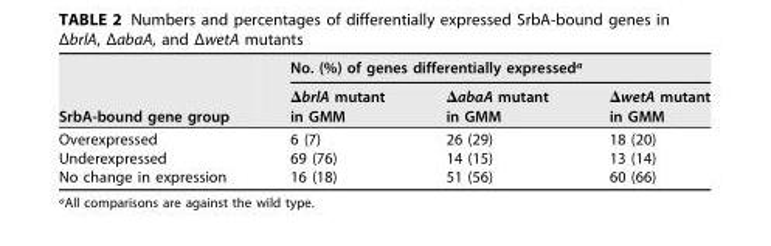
<table><thead><tr><td rowspan="2">SrbA-bound gene group</td><td colspan="3">No. (%) of genes differentially expressed<sup>a</sup></td></tr><tr><td>ΔbrlA mutant in GMM</td><td>ΔabaA mutant in GMM</td><td>ΔwetA mutant in GMM</td></tr></thead><tbody><tr><td>Overexpressed</td><td>6 (7)</td><td>26 (29)</td><td>18 (20)</td></tr><tr><td>Underexpressed</td><td>69 (76)</td><td>14 (15)</td><td>13 (14)</td></tr><tr><td>No change in expression</td><td>16 (18)</td><td>51 (56)</td><td>60 (66)</td></tr></tbody></table>